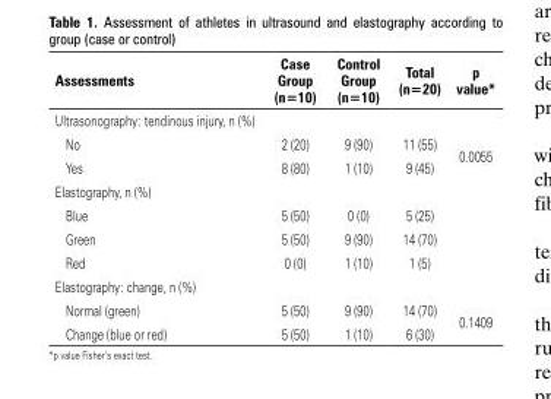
<table><thead><tr><td>Assessments</td><td>Case Group (n=10)</td><td>Control Group (n=10)</td><td>Total (n=20)</td><td>p value*</td></tr></thead><tbody><tr><td colspan="5">Ultrasonography: tendinous injury, n (%)</td></tr><tr><td>No</td><td>2 (20)</td><td>9 (90)</td><td>11 (55)</td><td rowspan="2">0.0055</td></tr><tr><td>Yes</td><td>8 (80)</td><td>1 (10)</td><td>9 (45)</td></tr><tr><td colspan="5">Elastography, n (%)</td></tr><tr><td>Blue</td><td>5 (50)</td><td>0 (0)</td><td>5 (25)</td><td></td></tr><tr><td>Green</td><td>5 (50)</td><td>9 (90)</td><td>14 (70)</td><td></td></tr><tr><td>Red</td><td>0 (0)</td><td>1 (10)</td><td>1 (5)</td><td></td></tr><tr><td colspan="5">Elastography: change, n (%)</td></tr><tr><td>Normal (green)</td><td>5 (50)</td><td>9 (90)</td><td>14 (70)</td><td rowspan="2">0.1409</td></tr><tr><td>Change (blue or red)</td><td>5 (50)</td><td>1 (10)</td><td>6 (30)</td></tr></tbody></table>